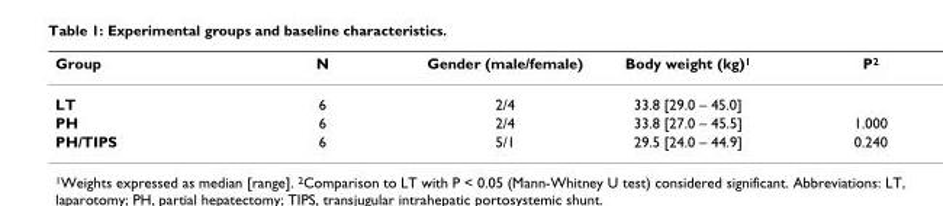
<table><thead><tr><td>Group</td><td>N</td><td>Gender (male/female)</td><td>Body weight (kg)<sup>1</sup></td><td>P<sup>2</sup></td></tr></thead><tbody><tr><td>LT</td><td>6</td><td>2/4</td><td>33.8 [29.0 – 45.0]</td><td></td></tr><tr><td>PH</td><td>6</td><td>2/4</td><td>33.8 [27.0 – 45.5]</td><td>1.000</td></tr><tr><td>PH/TIPS</td><td>6</td><td>5/1</td><td>29.5 [24.0 – 44.9]</td><td>0.240</td></tr></tbody></table>